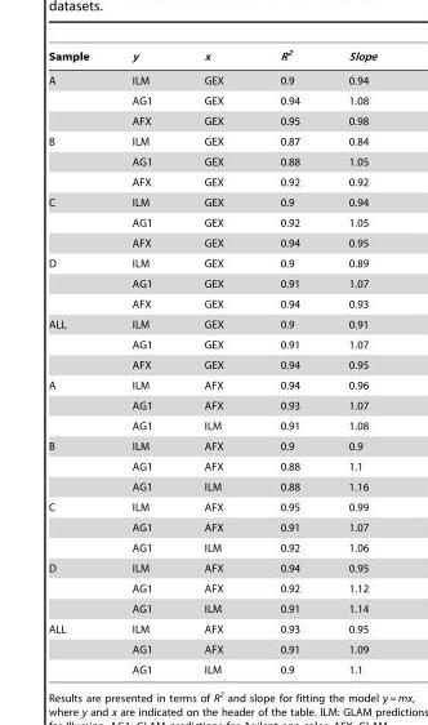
<table><thead><tr><td>Sample</td><td>y</td><td>x</td><td>R<sup>2</sup></td><td>Slope</td></tr></thead><tbody><tr><td rowspan="3">A</td><td>ILM</td><td>GEX</td><td>0.9</td><td>0.94</td></tr><tr><td>AG1</td><td>GEX</td><td>0.94</td><td>1.08</td></tr><tr><td>AFX</td><td>GEX</td><td>0.95</td><td>0.98</td></tr><tr><td rowspan="3">B</td><td>ILM</td><td>GEX</td><td>0.87</td><td>0.84</td></tr><tr><td>AG1</td><td>GEX</td><td>0.88</td><td>1.05</td></tr><tr><td>AFX</td><td>GEX</td><td>0.92</td><td>0.92</td></tr><tr><td rowspan="3">C</td><td>ILM</td><td>GEX</td><td>0.9</td><td>0.94</td></tr><tr><td>AG1</td><td>GEX</td><td>0.92</td><td>1.05</td></tr><tr><td>AFX</td><td>GEX</td><td>0.94</td><td>0.95</td></tr><tr><td rowspan="3">D</td><td>ILM</td><td>GEX</td><td>0.9</td><td>0.89</td></tr><tr><td>AG1</td><td>GEX</td><td>0.91</td><td>1.07</td></tr><tr><td>AFX</td><td>GEX</td><td>0.94</td><td>0.93</td></tr><tr><td rowspan="3">ALL</td><td>ILM</td><td>GEX</td><td>0.9</td><td>0.91</td></tr><tr><td>AG1</td><td>GEX</td><td>0.91</td><td>1.07</td></tr><tr><td>AFX</td><td>GEX</td><td>0.94</td><td>0.95</td></tr><tr><td rowspan="3">A</td><td>ILM</td><td>AFX</td><td>0.94</td><td>0.96</td></tr><tr><td>AG1</td><td>AFX</td><td>0.93</td><td>1.07</td></tr><tr><td>AG1</td><td>ILM</td><td>0.91</td><td>1.08</td></tr><tr><td rowspan="3">B</td><td>ILM</td><td>AFX</td><td>0.9</td><td>0.9</td></tr><tr><td>AG1</td><td>AFX</td><td>0.88</td><td>1.1</td></tr><tr><td>AG1</td><td>ILM</td><td>0.88</td><td>1.16</td></tr><tr><td rowspan="3">C</td><td>ILM</td><td>AFX</td><td>0.95</td><td>0.99</td></tr><tr><td>AG1</td><td>AFX</td><td>0.91</td><td>1.07</td></tr><tr><td>AG1</td><td>ILM</td><td>0.92</td><td>1.06</td></tr><tr><td rowspan="3">D</td><td>ILM</td><td>AFX</td><td>0.94</td><td>0.95</td></tr><tr><td>AG1</td><td>AFX</td><td>0.92</td><td>1.12</td></tr><tr><td>AG1</td><td>ILM</td><td>0.91</td><td>1.14</td></tr><tr><td rowspan="3">ALL</td><td>ILM</td><td>AFX</td><td>0.93</td><td>0.95</td></tr><tr><td>AG1</td><td>AFX</td><td>0.91</td><td>1.09</td></tr><tr><td>AG1</td><td>ILM</td><td>0.9</td><td>1.1</td></tr></tbody></table>